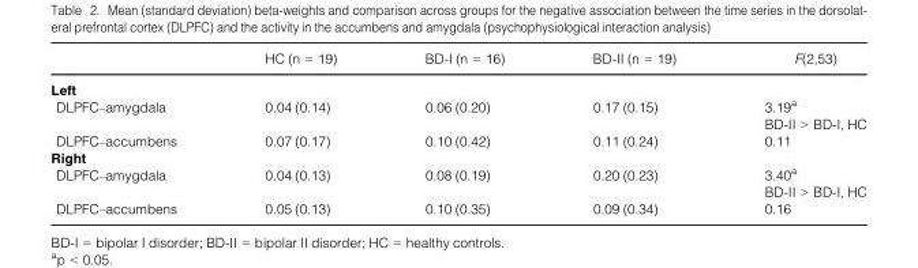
<table><thead><tr><td></td><td>HC (n = 19)</td><td>BD-I (n = 16)</td><td>BD-II (n = 19)</td><td>F(2,53)</td></tr></thead><tbody><tr><td colspan="5">Left</td></tr><tr><td>DLPFC–amygdala</td><td>0.04 (0.14)</td><td>0.06 (0.20)</td><td>0.17 (0.15)</td><td>3.19<sup>a</sup> BD-II &gt; BD-I, HC</td></tr><tr><td>DLPFC–accumbens</td><td>0.07 (0.17)</td><td>0.10 (0.42)</td><td>0.11 (0.24)</td><td>0.11</td></tr><tr><td colspan="5">Right</td></tr><tr><td>DLPFC–amygdala</td><td>0.04 (0.13)</td><td>0.08 (0.19)</td><td>0.20 (0.23)</td><td>3.40<sup>a</sup> BD-II &gt; BD-I, HC</td></tr><tr><td>DLPFC–accumbens</td><td>0.05 (0.13)</td><td>0.10 (0.35)</td><td>0.09 (0.34)</td><td>0.16</td></tr></tbody></table>